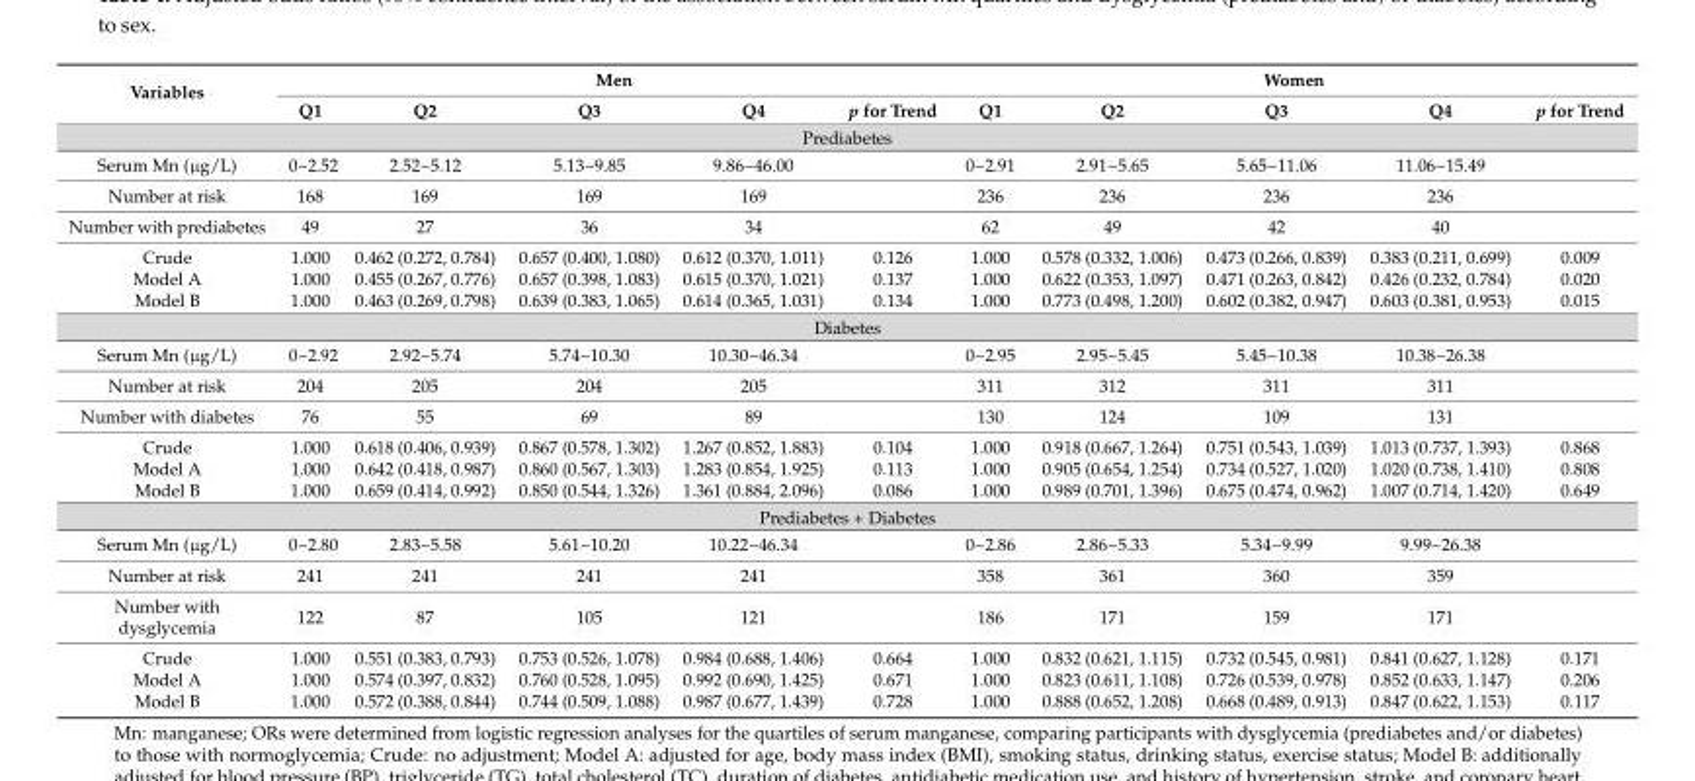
<table><thead><tr><td rowspan="2">Variables</td><td colspan="5">Men</td><td colspan="5">Women</td></tr><tr><td>Q1</td><td>Q2</td><td>Q3</td><td>Q4</td><td>p for Trend</td><td>Q1</td><td>Q2</td><td>Q3</td><td>Q4</td><td>p for Trend</td></tr></thead><tbody><tr><td colspan="11">Prediabetes</td></tr><tr><td>Serum Mn (µg/L)</td><td>0~2.52</td><td>2.52~5.12</td><td>5.13~9.85</td><td>9.86~46.00</td><td></td><td>0~2.91</td><td>2.91~5.65</td><td>5.65~11.06</td><td>11.06~15.49</td><td></td></tr><tr><td>Number at risk</td><td>168</td><td>169</td><td>169</td><td>169</td><td></td><td>236</td><td>236</td><td>236</td><td>236</td><td></td></tr><tr><td>Number with prediabetes</td><td>49</td><td>27</td><td>36</td><td>34</td><td></td><td>62</td><td>49</td><td>42</td><td>40</td><td></td></tr><tr><td>Crude</td><td>1.000</td><td>0.462 (0.272, 0.784)</td><td>0.657 (0.400, 1.080)</td><td>0.612 (0.370, 1.011)</td><td>0.126</td><td>1.000</td><td>0.578 (0.332, 1.006)</td><td>0.473 (0.266, 0.839)</td><td>0.383 (0.211, 0.699)</td><td>0.009</td></tr><tr><td>Model A</td><td>1.000</td><td>0.455 (0.267, 0.776)</td><td>0.657 (0.398, 1.083)</td><td>0.615 (0.370, 1.021)</td><td>0.137</td><td>1.000</td><td>0.622 (0.353, 1.097)</td><td>0.471 (0.263, 0.842)</td><td>0.426 (0.232, 0.784)</td><td>0.020</td></tr><tr><td>Model B</td><td>1.000</td><td>0.463 (0.269, 0.798)</td><td>0.639 (0.383, 1.065)</td><td>0.614 (0.365, 1.031)</td><td>0.134</td><td>1.000</td><td>0.773 (0.498, 1.200)</td><td>0.602 (0.382, 0.947)</td><td>0.603 (0.381, 0.953)</td><td>0.015</td></tr><tr><td colspan="11">Diabetes</td></tr><tr><td>Serum Mn (µg/L)</td><td>0~2.92</td><td>2.92~5.74</td><td>5.74~10.30</td><td>10.30~46.34</td><td></td><td>0~2.95</td><td>2.95~5.45</td><td>5.45~10.38</td><td>10.38~26.38</td><td></td></tr><tr><td>Number at risk</td><td>204</td><td>205</td><td>204</td><td>205</td><td></td><td>311</td><td>312</td><td>311</td><td>311</td><td></td></tr><tr><td>Number with diabetes</td><td>76</td><td>55</td><td>69</td><td>89</td><td></td><td>130</td><td>124</td><td>109</td><td>131</td><td></td></tr><tr><td>Crude</td><td>1.000</td><td>0.618 (0.406, 0.939)</td><td>0.867 (0.578, 1.302)</td><td>1.267 (0.852, 1.883)</td><td>0.104</td><td>1.000</td><td>0.918 (0.667, 1.264)</td><td>0.751 (0.543, 1.039)</td><td>1.013 (0.737, 1.393)</td><td>0.868</td></tr><tr><td>Model A</td><td>1.000</td><td>0.642 (0.418, 0.987)</td><td>0.860 (0.567, 1.303)</td><td>1.283 (0.854, 1.925)</td><td>0.113</td><td>1.000</td><td>0.905 (0.654, 1.254)</td><td>0.734 (0.527, 1.020)</td><td>1.020 (0.738, 1.410)</td><td>0.808</td></tr><tr><td>Model B</td><td>1.000</td><td>0.659 (0.414, 0.992)</td><td>0.850 (0.544, 1.326)</td><td>1.361 (0.884, 2.096)</td><td>0.086</td><td>1.000</td><td>0.989 (0.701, 1.396)</td><td>0.675 (0.474, 0.962)</td><td>1.007 (0.714, 1.420)</td><td>0.649</td></tr><tr><td colspan="11">Prediabetes + Diabetes</td></tr><tr><td>Serum Mn (µg/L)</td><td>0~2.80</td><td>2.83~5.58</td><td>5.61~10.20</td><td>10.22~46.34</td><td></td><td>0~2.86</td><td>2.86~5.33</td><td>5.34~9.99</td><td>9.99~26.38</td><td></td></tr><tr><td>Number at risk</td><td>241</td><td>241</td><td>241</td><td>241</td><td></td><td>358</td><td>361</td><td>360</td><td>359</td><td></td></tr><tr><td>Number with dysglycemia</td><td>122</td><td>87</td><td>105</td><td>121</td><td></td><td>186</td><td>171</td><td>159</td><td>171</td><td></td></tr><tr><td>Crude</td><td>1.000</td><td>0.551 (0.383, 0.793)</td><td>0.753 (0.526, 1.078)</td><td>0.984 (0.688, 1.406)</td><td>0.664</td><td>1.000</td><td>0.832 (0.621, 1.115)</td><td>0.732 (0.545, 0.981)</td><td>0.841 (0.627, 1.128)</td><td>0.171</td></tr><tr><td>Model A</td><td>1.000</td><td>0.574 (0.397, 0.832)</td><td>0.760 (0.528, 1.095)</td><td>0.992 (0.690, 1.425)</td><td>0.671</td><td>1.000</td><td>0.823 (0.611, 1.108)</td><td>0.726 (0.539, 0.978)</td><td>0.852 (0.633, 1.147)</td><td>0.206</td></tr><tr><td>Model B</td><td>1.000</td><td>0.572 (0.388, 0.844)</td><td>0.744 (0.509, 1.088)</td><td>0.987 (0.677, 1.439)</td><td>0.728</td><td>1.000</td><td>0.888 (0.652, 1.208)</td><td>0.668 (0.489, 0.913)</td><td>0.847 (0.622, 1.153)</td><td>0.117</td></tr></tbody></table>